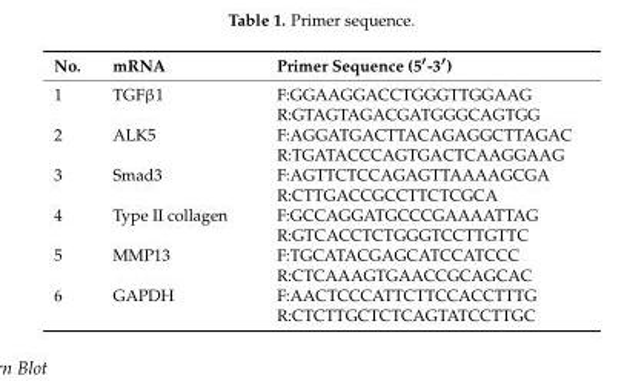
<table><thead><tr><td>No.</td><td>mRNA</td><td>Primer Sequence (5′-3′)</td></tr></thead><tbody><tr><td rowspan="2">1</td><td>TGFβ1</td><td>F:GGAAGGACCTGGGTTGGAAG</td></tr><tr><td></td><td>R:GTAGTAGACGATGGGCAGTGG</td></tr><tr><td rowspan="2">2</td><td>ALK5</td><td>F:AGGATGACTTACAGAGGCTTAGAC</td></tr><tr><td></td><td>R:TGATACCCAGTGACTCAAGGAAG</td></tr><tr><td rowspan="2">3</td><td>Smad3</td><td>F:AGTTCTCCAGAGTTAAAAGCGA</td></tr><tr><td></td><td>R:CTTGACCGCCTTCTCGCA</td></tr><tr><td rowspan="2">4</td><td>Type II collagen</td><td>F:GCCAGGATGCCCGAAAATTAG</td></tr><tr><td></td><td>R:GTCACCTCTGGGTCCTTGTTC</td></tr><tr><td rowspan="2">5</td><td>MMP13</td><td>F:TGCATACGAGCATCCATCCC</td></tr><tr><td></td><td>R:CTCAAAGTGAACCGCAGCAC</td></tr><tr><td rowspan="2">6</td><td>GAPDH</td><td>F:AACTCCCATTCTTCCACCTTTG</td></tr><tr><td></td><td>R:CTCTTGCTCTCAGTATCCTTGC</td></tr></tbody></table>